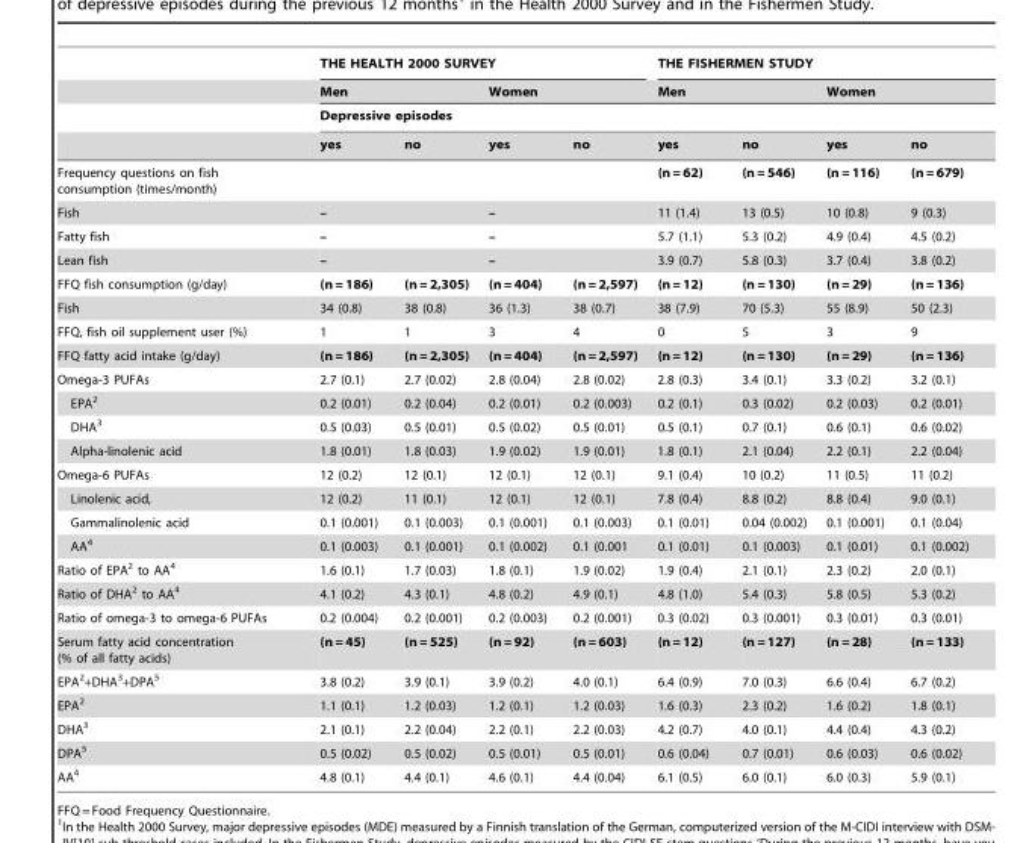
<table><thead><tr><td rowspan="4"></td><td colspan="4">THE HEALTH 2000 SURVEY</td><td colspan="4">THE FISHERMEN STUDY</td></tr><tr><td colspan="2">Men</td><td colspan="2">Women</td><td colspan="2">Men</td><td colspan="2">Women</td></tr><tr><td colspan="8">Depressive episodes</td></tr><tr><td>yes</td><td>no</td><td>yes</td><td>no</td><td>yes</td><td>no</td><td>yes</td><td>no</td></tr></thead><tbody><tr><td>Frequency questions on fish consumption (times/month)</td><td></td><td></td><td></td><td></td><td>(n = 62)</td><td>(n = 546)</td><td>(n = 116)</td><td>(n = 679)</td></tr><tr><td>Fish</td><td colspan="2">–</td><td colspan="2">–</td><td>11 (1.4)</td><td>13 (0.5)</td><td>10 (0.8)</td><td>9 (0.3)</td></tr><tr><td>Fatty fish</td><td colspan="2">–</td><td colspan="2">–</td><td>5.7 (1.1)</td><td>5.3 (0.2)</td><td>4.9 (0.4)</td><td>4.5 (0.2)</td></tr><tr><td>Lean fish</td><td colspan="2">–</td><td colspan="2">–</td><td>3.9 (0.7)</td><td>5.8 (0.3)</td><td>3.7 (0.4)</td><td>3.8 (0.2)</td></tr><tr><td>FFQ fish consumption (g/day)</td><td>(n = 186)</td><td>(n = 2,305)</td><td>(n = 404)</td><td>(n = 2,597)</td><td>(n = 12)</td><td>(n = 130)</td><td>(n = 29)</td><td>(n = 136)</td></tr><tr><td>Fish</td><td>34 (0.8)</td><td>38 (0.8)</td><td>36 (1.3)</td><td>38 (0.7)</td><td>38 (7.9)</td><td>70 (5.3)</td><td>55 (8.9)</td><td>50 (2.3)</td></tr><tr><td>FFQ, fish oil supplement user (%)</td><td>1</td><td>1</td><td>3</td><td>4</td><td>0</td><td>5</td><td>3</td><td>9</td></tr><tr><td>FFQ fatty acid intake (g/day)</td><td>(n = 186)</td><td>(n = 2,305)</td><td>(n = 404)</td><td>(n = 2,597)</td><td>(n = 12)</td><td>(n = 130)</td><td>(n = 29)</td><td>(n = 136)</td></tr><tr><td>Omega-3 PUFAs</td><td>2.7 (0.1)</td><td>2.7 (0.02)</td><td>2.8 (0.04)</td><td>2.8 (0.02)</td><td>2.8 (0.3)</td><td>3.4 (0.1)</td><td>3.3 (0.2)</td><td>3.2 (0.1)</td></tr><tr><td>EPA<sup>2</sup></td><td>0.2 (0.01)</td><td>0.2 (0.04)</td><td>0.2 (0.01)</td><td>0.2 (0.003)</td><td>0.2 (0.1)</td><td>0.3 (0.02)</td><td>0.2 (0.03)</td><td>0.2 (0.01)</td></tr><tr><td>DHA<sup>3</sup></td><td>0.5 (0.03)</td><td>0.5 (0.01)</td><td>0.5 (0.02)</td><td>0.5 (0.01)</td><td>0.5 (0.1)</td><td>0.7 (0.1)</td><td>0.6 (0.1)</td><td>0.6 (0.02)</td></tr><tr><td>Alpha-linolenic acid</td><td>1.8 (0.01)</td><td>1.8 (0.03)</td><td>1.9 (0.02)</td><td>1.9 (0.01)</td><td>1.8 (0.1)</td><td>2.1 (0.04)</td><td>2.2 (0.1)</td><td>2.2 (0.04)</td></tr><tr><td>Omega-6 PUFAs</td><td>12 (0.2)</td><td>12 (0.1)</td><td>12 (0.1)</td><td>12 (0.1)</td><td>9.1 (0.4)</td><td>10 (0.2)</td><td>11 (0.5)</td><td>11 (0.2)</td></tr><tr><td>Linolenic acid,</td><td>12 (0.2)</td><td>11 (0.1)</td><td>12 (0.1)</td><td>12 (0.1)</td><td>7.8 (0.4)</td><td>8.8 (0.2)</td><td>8.8 (0.4)</td><td>9.0 (0.1)</td></tr><tr><td>Gammalinolenic acid</td><td>0.1 (0.001)</td><td>0.1 (0.003)</td><td>0.1 (0.001)</td><td>0.1 (0.003)</td><td>0.1 (0.01)</td><td>0.04 (0.002)</td><td>0.1 (0.001)</td><td>0.1 (0.04)</td></tr><tr><td>AA<sup>4</sup></td><td>0.1 (0.003)</td><td>0.1 (0.001)</td><td>0.1 (0.002)</td><td>0.1 (0.001</td><td>0.1 (0.01)</td><td>0.1 (0.003)</td><td>0.1 (0.01)</td><td>0.1 (0.002)</td></tr><tr><td>Ratio of EPA<sup>2</sup> to AA<sup>4</sup></td><td>1.6 (0.1)</td><td>1.7 (0.03)</td><td>1.8 (0.1)</td><td>1.9 (0.02)</td><td>1.9 (0.4)</td><td>2.1 (0.1)</td><td>2.3 (0.2)</td><td>2.0 (0.1)</td></tr><tr><td>Ratio of DHA<sup>2</sup> to AA<sup>4</sup></td><td>4.1 (0.2)</td><td>4.3 (0.1)</td><td>4.8 (0.2)</td><td>4.9 (0.1)</td><td>4.8 (1.0)</td><td>5.4 (0.3)</td><td>5.8 (0.5)</td><td>5.3 (0.2)</td></tr><tr><td>Ratio of omega-3 to omega-6 PUFAs</td><td>0.2 (0.004)</td><td>0.2 (0.001)</td><td>0.2 (0.003)</td><td>0.2 (0.001)</td><td>0.3 (0.02)</td><td>0.3 (0.001)</td><td>0.3 (0.01)</td><td>0.3 (0.01)</td></tr><tr><td>Serum fatty acid concentration (% of all fatty acids)</td><td>(n = 45)</td><td>(n = 525)</td><td>(n = 92)</td><td>(n = 603)</td><td>(n = 12)</td><td>(n = 127)</td><td>(n = 28)</td><td>(n = 133)</td></tr><tr><td>EPA<sup>2</sup>+DHA<sup>3</sup>+DPA<sup>5</sup></td><td>3.8 (0.2)</td><td>3.9 (0.1)</td><td>3.9 (0.2)</td><td>4.0 (0.1)</td><td>6.4 (0.9)</td><td>7.0 (0.3)</td><td>6.6 (0.4)</td><td>6.7 (0.2)</td></tr><tr><td>EPA<sup>2</sup></td><td>1.1 (0.1)</td><td>1.2 (0.03)</td><td>1.2 (0.1)</td><td>1.2 (0.03)</td><td>1.6 (0.3)</td><td>2.3 (0.2)</td><td>1.6 (0.2)</td><td>1.8 (0.1)</td></tr><tr><td>DHA<sup>3</sup></td><td>2.1 (0.1)</td><td>2.2 (0.04)</td><td>2.2 (0.1)</td><td>2.2 (0.03)</td><td>4.2 (0.7)</td><td>4.0 (0.1)</td><td>4.4 (0.4)</td><td>4.3 (0.2)</td></tr><tr><td>DPA<sup>5</sup></td><td>0.5 (0.02)</td><td>0.5 (0.02)</td><td>0.5 (0.01)</td><td>0.5 (0.01)</td><td>0.6 (0.04)</td><td>0.7 (0.01)</td><td>0.6 (0.03)</td><td>0.6 (0.02)</td></tr><tr><td>AA<sup>4</sup></td><td>4.8 (0.1)</td><td>4.4 (0.1)</td><td>4.6 (0.1)</td><td>4.4 (0.04)</td><td>6.1 (0.5)</td><td>6.0 (0.1)</td><td>6.0 (0.3)</td><td>5.9 (0.1)</td></tr></tbody></table>